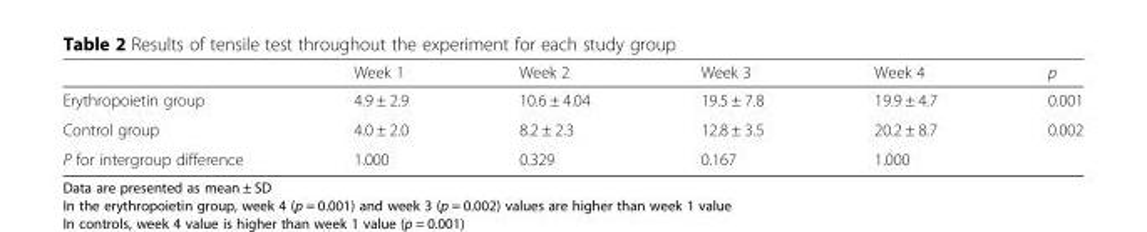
<table><thead><tr><td></td><td>Week 1</td><td>Week 2</td><td>Week 3</td><td>Week 4</td><td>p</td></tr></thead><tbody><tr><td>Erythropoietin group</td><td>4.9 ± 2.9</td><td>10.6 ± 4.04</td><td>19.5 ± 7.8</td><td>19.9 ± 4.7</td><td>0.001</td></tr><tr><td>Control group</td><td>4.0 ± 2.0</td><td>8.2 ± 2.3</td><td>12.8 ± 3.5</td><td>20.2 ± 8.7</td><td>0.002</td></tr><tr><td>P for intergroup difference</td><td>1.000</td><td>0.329</td><td>0.167</td><td>1.000</td><td></td></tr></tbody></table>